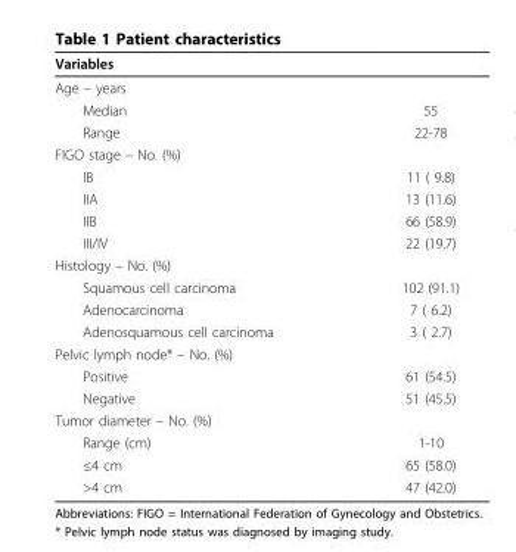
<table><thead><tr><td rowspan="2" colspan="2">Variables Age – years</td></tr><tr></tr><tr><td>Median</td><td>55</td></tr></thead><tbody><tr><td>Range</td><td>22-78</td></tr><tr><td colspan="2">FIGO stage – No. (%)</td></tr><tr><td>IB</td><td>11 ( 9.8)</td></tr><tr><td>IIA</td><td>13 (11.6)</td></tr><tr><td>IIB</td><td>66 (58.9)</td></tr><tr><td>III/IV</td><td>22 (19.7)</td></tr><tr><td colspan="2">Histology – No. (%)</td></tr><tr><td>Squamous cell carcinoma</td><td>102 (91.1)</td></tr><tr><td>Adenocarcinoma</td><td>7 ( 6.2)</td></tr><tr><td>Adenosquamous cell carcinoma</td><td>3 ( 2.7)</td></tr><tr><td colspan="2">Pelvic lymph node* – No. (%)</td></tr><tr><td>Positive</td><td>61 (54.5)</td></tr><tr><td>Negative</td><td>51 (45.5)</td></tr><tr><td colspan="2">Tumor diameter – No. (%)</td></tr><tr><td>Range (cm)</td><td>1-10</td></tr><tr><td>≤4 cm</td><td>65 (58.0)</td></tr><tr><td>&gt;4 cm</td><td>47 (42.0)</td></tr></tbody></table>